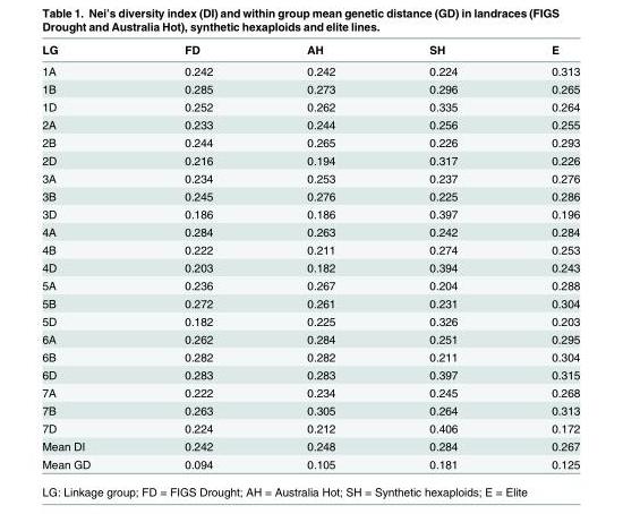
<table><thead><tr><td>LG</td><td>FD</td><td>AH</td><td>SH</td><td>E</td></tr></thead><tbody><tr><td>1A</td><td>0.242</td><td>0.242</td><td>0.224</td><td>0.313</td></tr><tr><td>1B</td><td>0.285</td><td>0.273</td><td>0.296</td><td>0.265</td></tr><tr><td>1D</td><td>0.252</td><td>0.262</td><td>0.335</td><td>0.264</td></tr><tr><td>2A</td><td>0.233</td><td>0.244</td><td>0.256</td><td>0.255</td></tr><tr><td>2B</td><td>0.244</td><td>0.265</td><td>0.226</td><td>0.293</td></tr><tr><td>2D</td><td>0.216</td><td>0.194</td><td>0.317</td><td>0.226</td></tr><tr><td>3A</td><td>0.234</td><td>0.253</td><td>0.237</td><td>0.276</td></tr><tr><td>3B</td><td>0.245</td><td>0.276</td><td>0.225</td><td>0.286</td></tr><tr><td>3D</td><td>0.186</td><td>0.186</td><td>0.397</td><td>0.196</td></tr><tr><td>4A</td><td>0.284</td><td>0.263</td><td>0.242</td><td>0.284</td></tr><tr><td>4B</td><td>0.222</td><td>0.211</td><td>0.274</td><td>0.253</td></tr><tr><td>4D</td><td>0.203</td><td>0.182</td><td>0.394</td><td>0.243</td></tr><tr><td>5A</td><td>0.236</td><td>0.267</td><td>0.204</td><td>0.288</td></tr><tr><td>5B</td><td>0.272</td><td>0.261</td><td>0.231</td><td>0.304</td></tr><tr><td>5D</td><td>0.182</td><td>0.225</td><td>0.326</td><td>0.203</td></tr><tr><td>6A</td><td>0.262</td><td>0.284</td><td>0.251</td><td>0.295</td></tr><tr><td>6B</td><td>0.282</td><td>0.282</td><td>0.211</td><td>0.304</td></tr><tr><td>6D</td><td>0.283</td><td>0.283</td><td>0.397</td><td>0.315</td></tr><tr><td>7A</td><td>0.222</td><td>0.234</td><td>0.245</td><td>0.268</td></tr><tr><td>7B</td><td>0.263</td><td>0.305</td><td>0.264</td><td>0.313</td></tr><tr><td>7D</td><td>0.224</td><td>0.212</td><td>0.406</td><td>0.172</td></tr><tr><td>Mean DI</td><td>0.242</td><td>0.248</td><td>0.284</td><td>0.267</td></tr><tr><td>Mean GD</td><td>0.094</td><td>0.105</td><td>0.181</td><td>0.125</td></tr></tbody></table>